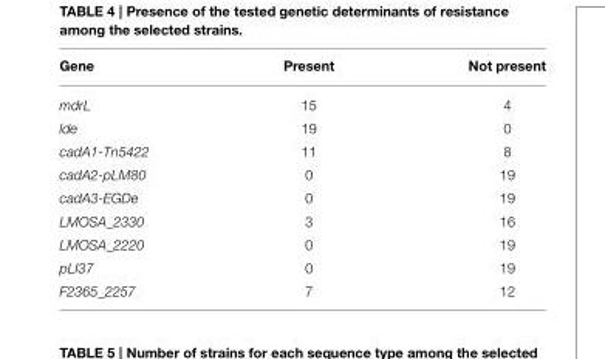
<table><thead><tr><td>Gene</td><td>Present</td><td>Not present</td></tr></thead><tbody><tr><td>mdrL</td><td>15</td><td>4</td></tr><tr><td>lde</td><td>19</td><td>0</td></tr><tr><td>cadA1-Tn5422</td><td>11</td><td>8</td></tr><tr><td>cadA2-pLM80</td><td>0</td><td>19</td></tr><tr><td>cadA3-EGDe</td><td>0</td><td>19</td></tr><tr><td>LMOSA_2330</td><td>3</td><td>16</td></tr><tr><td>LMOSA_2220</td><td>0</td><td>19</td></tr><tr><td>pLI37</td><td>0</td><td>19</td></tr><tr><td>F2365_2257</td><td>7</td><td>12</td></tr></tbody></table>